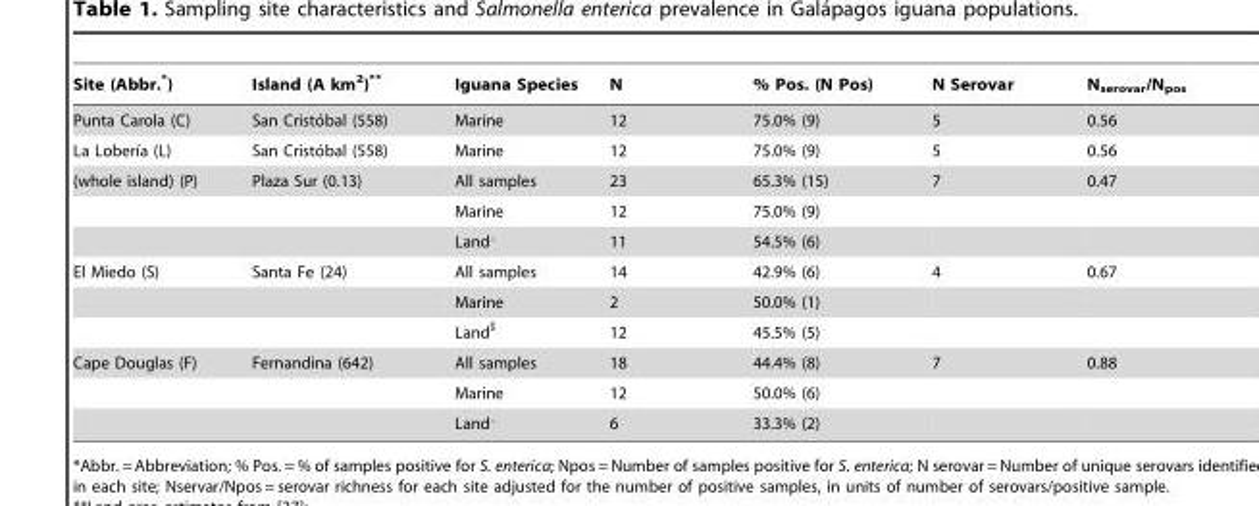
<table><thead><tr><td>Site (Abbr.*)</td><td>Island (A km<sup>2</sup>)**</td><td>Iguana Species</td><td>N</td><td>% Pos. (N Pos)</td><td>N Serovar</td><td>N<sub>serovar</sub>/N<sub>pos</sub></td></tr></thead><tbody><tr><td>Punta Carola (C)</td><td>San Cristo´bal (558)</td><td>Marine</td><td>12</td><td>75.0% (9)</td><td>5</td><td>0.56</td></tr><tr><td>La Loberı´a (L)</td><td>San Cristo´bal (558)</td><td>Marine</td><td>12</td><td>75.0% (9)</td><td>5</td><td>0.56</td></tr><tr><td rowspan="3">(whole island) (P)</td><td>Plaza Sur (0.13)</td><td>All samples</td><td>23</td><td>65.3% (15)</td><td>7</td><td>0.47</td></tr><tr><td></td><td>Marine</td><td>12</td><td>75.0% (9)</td><td></td><td></td></tr><tr><td></td><td>Land‘</td><td>11</td><td>54.5% (6)</td><td></td><td></td></tr><tr><td rowspan="3">El Miedo (S)</td><td>Santa Fe (24)</td><td>All samples</td><td>14</td><td>42.9% (6)</td><td>4</td><td>0.67</td></tr><tr><td></td><td>Marine</td><td>2</td><td>50.0% (1)</td><td></td><td></td></tr><tr><td></td><td>Land$</td><td>12</td><td>45.5% (5)</td><td></td><td></td></tr><tr><td rowspan="3">Cape Douglas (F)</td><td>Fernandina (642)</td><td>All samples</td><td>18</td><td>44.4% (8)</td><td>7</td><td>0.88</td></tr><tr><td></td><td>Marine</td><td>12</td><td>50.0% (6)</td><td></td><td></td></tr><tr><td></td><td>Land‘</td><td>6</td><td>33.3% (2)</td><td></td><td></td></tr></tbody></table>